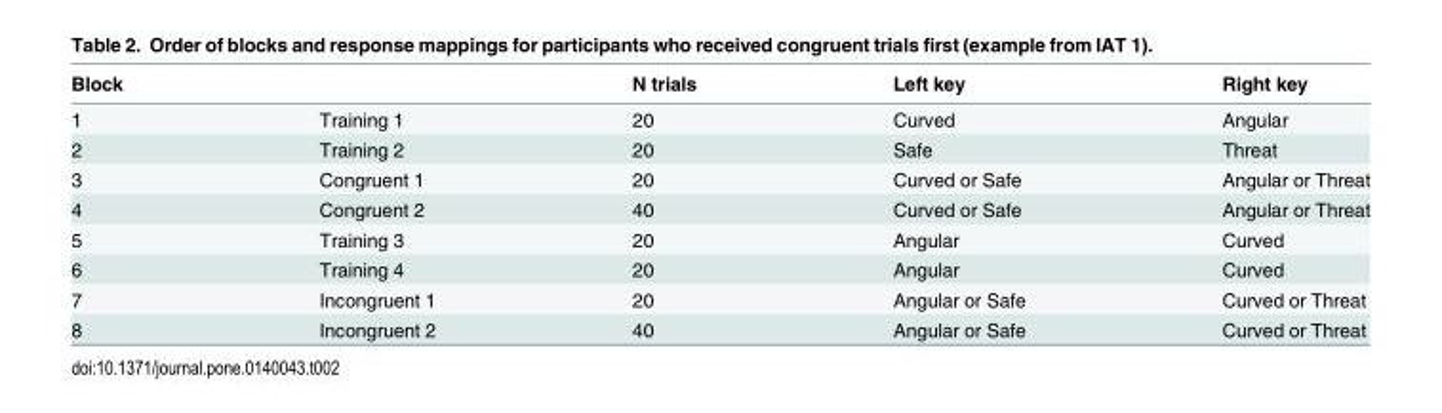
<table><thead><tr><td>Block</td><td></td><td>N trials</td><td>Left key</td><td>Right key</td></tr></thead><tbody><tr><td>1</td><td>Training 1</td><td>20</td><td>Curved</td><td>Angular</td></tr><tr><td>2</td><td>Training 2</td><td>20</td><td>Safe</td><td>Threat</td></tr><tr><td>3</td><td>Congruent 1</td><td>20</td><td>Curved or Safe</td><td>Angular or Threat</td></tr><tr><td>4</td><td>Congruent 2</td><td>40</td><td>Curved or Safe</td><td>Angular or Threat</td></tr><tr><td>5</td><td>Training 3</td><td>20</td><td>Angular</td><td>Curved</td></tr><tr><td>6</td><td>Training 4</td><td>20</td><td>Angular</td><td>Curved</td></tr><tr><td>7</td><td>Incongruent 1</td><td>20</td><td>Angular or Safe</td><td>Curved or Threat</td></tr><tr><td>8</td><td>Incongruent 2</td><td>40</td><td>Angular or Safe</td><td>Curved or Threat</td></tr></tbody></table>